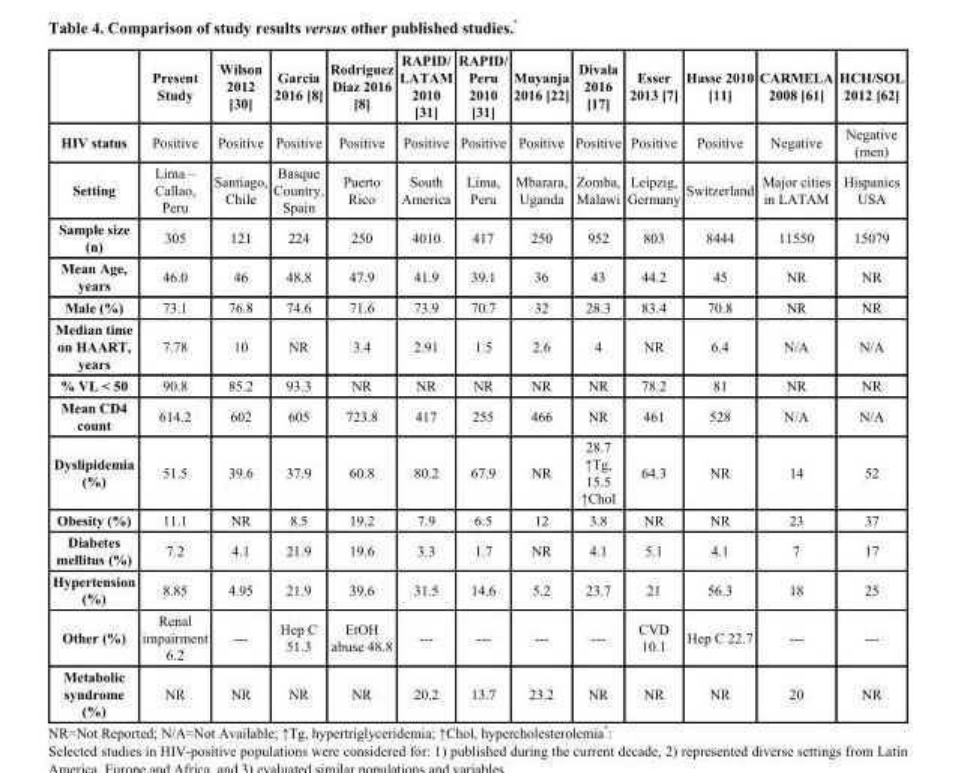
<table><thead><tr><td></td><td>Present Study</td><td>Wilson 2012 [30]</td><td>Garcia 2016 [8]</td><td>Rodriguez Diaz 2016 [8]</td><td>RAPID/ LATAM 2010 [31]</td><td>RAPID/ Peru 2010 [31]</td><td>Muyanja 2016 [22]</td><td>Divala 2016 [17]</td><td>Esser 2013 [7]</td><td>Hasse 2010 [11]</td><td>CARMELA 2008 [61]</td><td>HCH/SOL 2012 [62]</td></tr></thead><tbody><tr><td>HIV status</td><td>Positive</td><td>Positive</td><td>Positive</td><td>Positive</td><td>Positive</td><td>Positive</td><td>Positive</td><td>Positive</td><td>Positive</td><td>Positive</td><td>Negative</td><td>Negative (men)</td></tr><tr><td>Setting</td><td>Lima – Callao, Peru</td><td>Santiago, Chile</td><td>Basque Country, Spain</td><td>Puerto Rico</td><td>South America</td><td>Lima, Peru</td><td>Mbarara, Uganda</td><td>Zomba, Malawi</td><td>Leipzig, Germany</td><td>Switzerland</td><td>Major cities in LATAM</td><td>Hispanics USA</td></tr><tr><td>Sample size (n)</td><td>305</td><td>121</td><td>224</td><td>250</td><td>4010</td><td>417</td><td>250</td><td>952</td><td>803</td><td>8444</td><td>11550</td><td>15079</td></tr><tr><td>Mean Age, years</td><td>46.0</td><td>46</td><td>48.8</td><td>47.9</td><td>41.9</td><td>39.1</td><td>36</td><td>43</td><td>44.2</td><td>45</td><td>NR</td><td>NR</td></tr><tr><td>Male (%)</td><td>73.1</td><td>76.8</td><td>74.6</td><td>71.6</td><td>73.9</td><td>70.7</td><td>32</td><td>28.3</td><td>83.4</td><td>70.8</td><td>NR</td><td>NR</td></tr><tr><td>Median time on HAART, years</td><td>7.78</td><td>10</td><td>NR</td><td>3.4</td><td>2.91</td><td>1.5</td><td>2.6</td><td>4</td><td>NR</td><td>6.4</td><td>N/A</td><td>N/A</td></tr><tr><td>% VL &lt; 50</td><td>90.8</td><td>85.2</td><td>93.3</td><td>NR</td><td>NR</td><td>NR</td><td>NR</td><td>NR</td><td>78.2</td><td>81</td><td>NR</td><td>NR</td></tr><tr><td>Mean CD4 count</td><td>614.2</td><td>602</td><td>605</td><td>723.8</td><td>417</td><td>255</td><td>466</td><td>NR</td><td>461</td><td>528</td><td>N/A</td><td>N/A</td></tr><tr><td>Dyslipidemia (%)</td><td>51.5</td><td>39.6</td><td>37.9</td><td>60.8</td><td>80.2</td><td>67.9</td><td>NR</td><td>28.7 ↑Tg, 15.5 ↑Chol</td><td>64.3</td><td>NR</td><td>14</td><td>52</td></tr><tr><td>Obesity (%)</td><td>11.1</td><td>NR</td><td>8.5</td><td>19.2</td><td>7.9</td><td>6.5</td><td>12</td><td>3.8</td><td>NR</td><td>NR</td><td>23</td><td>37</td></tr><tr><td>Diabetes mellitus (%)</td><td>7.2</td><td>4.1</td><td>21.9</td><td>19.6</td><td>3.3</td><td>1.7</td><td>NR</td><td>4.1</td><td>5.1</td><td>4.1</td><td>7</td><td>17</td></tr><tr><td>Hypertension (%)</td><td>8.85</td><td>4.95</td><td>21.9</td><td>39.6</td><td>31.5</td><td>14.6</td><td>5.2</td><td>23.7</td><td>21</td><td>56.3</td><td>18</td><td>25</td></tr><tr><td>Other (%)</td><td>Renal impairment 6.2</td><td>---</td><td>Hep C 51.3</td><td>EtOH abuse 48.8</td><td>---</td><td>---</td><td>---</td><td>---</td><td>CVD 10.1</td><td>Hep C 22.7</td><td>---</td><td>---</td></tr><tr><td>Metabolic syndrome (%)</td><td>NR</td><td>NR</td><td>NR</td><td>NR</td><td>20.2</td><td>13.7</td><td>23.2</td><td>NR</td><td>NR</td><td>NR</td><td>20</td><td>NR</td></tr></tbody></table>